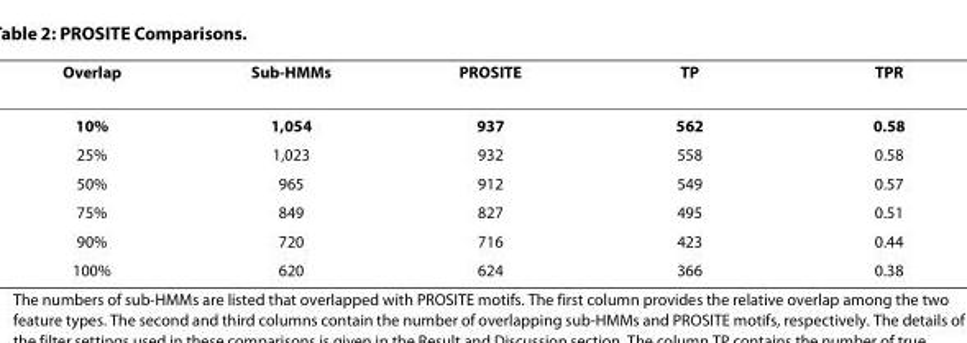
<table><thead><tr><td>Overlap</td><td>Sub-HMMs</td><td>PROSITE</td><td>TP</td><td>TPR</td></tr></thead><tbody><tr><td>10%</td><td>1,054</td><td>937</td><td>562</td><td>0.58</td></tr><tr><td>25%</td><td>1,023</td><td>932</td><td>558</td><td>0.58</td></tr><tr><td>50%</td><td>965</td><td>912</td><td>549</td><td>0.57</td></tr><tr><td>75%</td><td>849</td><td>827</td><td>495</td><td>0.51</td></tr><tr><td>90%</td><td>720</td><td>716</td><td>423</td><td>0.44</td></tr><tr><td>100%</td><td>620</td><td>624</td><td>366</td><td>0.38</td></tr></tbody></table>